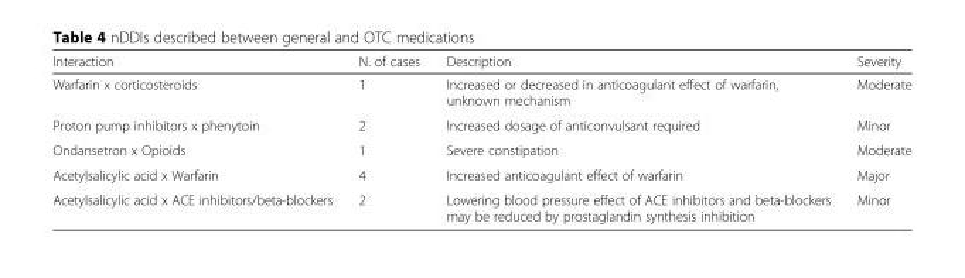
<table><thead><tr><td>Interaction</td><td>N. of cases</td><td>Description</td><td>Severity</td></tr></thead><tbody><tr><td>Warfarin x corticosteroids</td><td>1</td><td>Increased or decreased in anticoagulant effect of warfarin, unknown mechanism</td><td>Moderate</td></tr><tr><td>Proton pump inhibitors x phenytoin</td><td>2</td><td>Increased dosage of anticonvulsant required</td><td>Minor</td></tr><tr><td>Ondansetron x Opioids</td><td>1</td><td>Severe constipation</td><td>Moderate</td></tr><tr><td>Acetylsalicylic acid x Warfarin</td><td>4</td><td>Increased anticoagulant effect of warfarin</td><td>Major</td></tr><tr><td>Acetylsalicylic acid x ACE inhibitors/beta-blockers</td><td>2</td><td>Lowering blood pressure effect of ACE inhibitors and beta-blockers may be reduced by prostaglandin synthesis inhibition</td><td>Minor</td></tr></tbody></table>